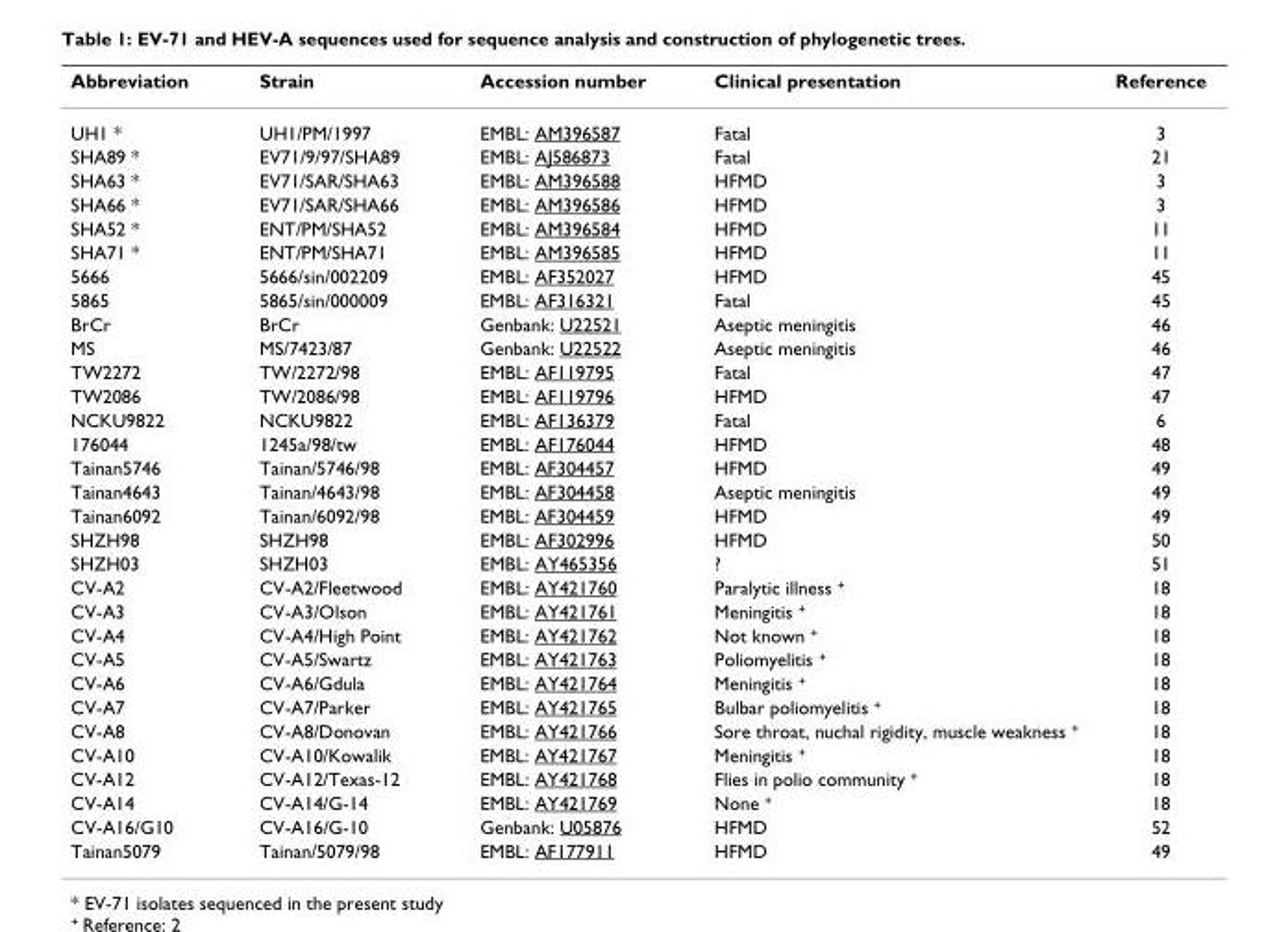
<table><thead><tr><td>Abbreviation</td><td>Strain</td><td>Accession number</td><td>Clinical presentation</td><td>Reference</td></tr></thead><tbody><tr><td>UH1 *</td><td>UH1/PM/1997</td><td>EMBL: AM396587</td><td>Fatal</td><td>3</td></tr><tr><td>SHA89 *</td><td>EV71/9/97/SHA89</td><td>EMBL: AJ586873</td><td>Fatal</td><td>21</td></tr><tr><td>SHA63 *</td><td>EV71/SAR/SHA63</td><td>EMBL: AM396588</td><td>HFMD</td><td>3</td></tr><tr><td>SHA66 *</td><td>EV71/SAR/SHA66</td><td>EMBL: AM396586</td><td>HFMD</td><td>3</td></tr><tr><td>SHA52 *</td><td>ENT/PM/SHA52</td><td>EMBL: AM396584</td><td>HFMD</td><td>11</td></tr><tr><td>SHA71 *</td><td>ENT/PM/SHA71</td><td>EMBL: AM396585</td><td>HFMD</td><td>11</td></tr><tr><td>5666</td><td>5666/sin/002209</td><td>EMBL: AF352027</td><td>HFMD</td><td>45</td></tr><tr><td>5865</td><td>5865/sin/000009</td><td>EMBL: AF316321</td><td>Fatal</td><td>45</td></tr><tr><td>BrCr</td><td>BrCr</td><td>Genbank: U22521</td><td>Aseptic meningitis</td><td>46</td></tr><tr><td>MS</td><td>MS/7423/87</td><td>Genbank: U22522</td><td>Aseptic meningitis</td><td>46</td></tr><tr><td>TW2272</td><td>TW/2272/98</td><td>EMBL: AF119795</td><td>Fatal</td><td>47</td></tr><tr><td>TW2086</td><td>TW/2086/98</td><td>EMBL: AF119796</td><td>HFMD</td><td>47</td></tr><tr><td>NCKU9822</td><td>NCKU9822</td><td>EMBL: AF136379</td><td>Fatal</td><td>6</td></tr><tr><td>176044</td><td>1245a/98/tw</td><td>EMBL: AF176044</td><td>HFMD</td><td>48</td></tr><tr><td>Tainan5746</td><td>Tainan/5746/98</td><td>EMBL: AF304457</td><td>HFMD</td><td>49</td></tr><tr><td>Tainan4643</td><td>Tainan/4643/98</td><td>EMBL: AF304458</td><td>Aseptic meningitis</td><td>49</td></tr><tr><td>Tainan6092</td><td>Tainan/6092/98</td><td>EMBL: AF304459</td><td>HFMD</td><td>49</td></tr><tr><td>SHZH98</td><td>SHZH98</td><td>EMBL: AF302996</td><td>HFMD</td><td>50</td></tr><tr><td>SHZH03</td><td>SHZH03</td><td>EMBL: AY465356</td><td>?</td><td>51</td></tr><tr><td>CV-A2</td><td>CV-A2/Fleetwood</td><td>EMBL: AY421760</td><td>Paralytic illness +</td><td>18</td></tr><tr><td>CV-A3</td><td>CV-A3/Olson</td><td>EMBL: AY421761</td><td>Meningitis +</td><td>18</td></tr><tr><td>CV-A4</td><td>CV-A4/High Point</td><td>EMBL: AY421762</td><td>Not known +</td><td>18</td></tr><tr><td>CV-A5</td><td>CV-A5/Swartz</td><td>EMBL: AY421763</td><td>Poliomyelitis +</td><td>18</td></tr><tr><td>CV-A6</td><td>CV-A6/Gdula</td><td>EMBL: AY421764</td><td>Meningitis +</td><td>18</td></tr><tr><td>CV-A7</td><td>CV-A7/Parker</td><td>EMBL: AY421765</td><td>Bulbar poliomyelitis +</td><td>18</td></tr><tr><td>CV-A8</td><td>CV-A8/Donovan</td><td>EMBL: AY421766</td><td>Sore throat, nuchal rigidity, muscle weakness +</td><td>18</td></tr><tr><td>CV-A10</td><td>CV-A10/Kowalik</td><td>EMBL: AY421767</td><td>Meningitis +</td><td>18</td></tr><tr><td>CV-A12</td><td>CV-A12/Texas-12</td><td>EMBL: AY421768</td><td>Flies in polio community +</td><td>18</td></tr><tr><td>CV-A14</td><td>CV-A14/G-14</td><td>EMBL: AY421769</td><td>None +</td><td>18</td></tr><tr><td>CV-A16/G10</td><td>CV-A16/G-10</td><td>Genbank: U05876</td><td>HFMD</td><td>52</td></tr><tr><td>Tainan5079</td><td>Tainan/5079/98</td><td>EMBL: AF177911</td><td>HFMD</td><td>49</td></tr></tbody></table>